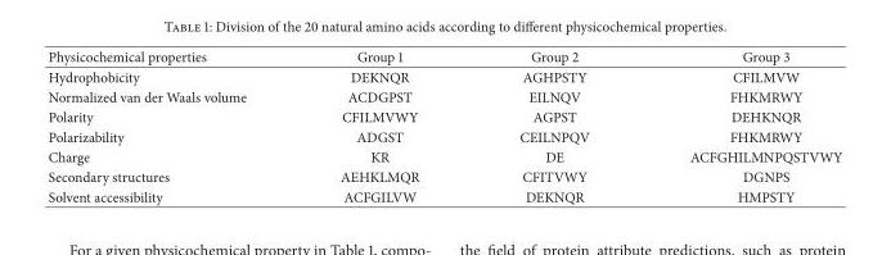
<table><thead><tr><td>Physicochemical properties</td><td>Group 1</td><td>Group 2</td><td>Group 3</td></tr></thead><tbody><tr><td>Hydrophobicity</td><td>DEKNQR</td><td>AGHPSTY</td><td>CFILMVW</td></tr><tr><td>Normalized van der Waals volume</td><td>ACDGPST</td><td>EILNQV</td><td>FHKMRWY</td></tr><tr><td>Polarity</td><td>CFILMVWY</td><td>AGPST</td><td>DEHKNQR</td></tr><tr><td>Polarizability</td><td>ADGST</td><td>CEILNPQV</td><td>FHKMRWY</td></tr><tr><td>Charge</td><td>KR</td><td>DE</td><td>ACFGHILMNPQSTVWY</td></tr><tr><td>Secondary structures</td><td>AEHKLMQR</td><td>CFITVWY</td><td>DGNPS</td></tr><tr><td>Solvent accessibility</td><td>ACFGILVW</td><td>DEKNQR</td><td>HMPSTY</td></tr></tbody></table>